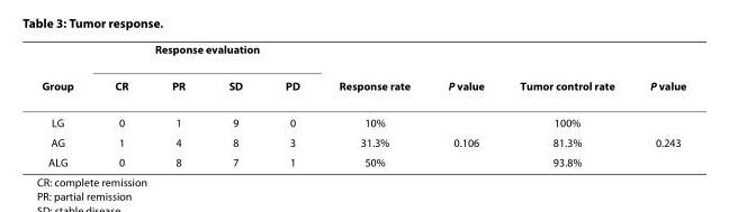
<table><thead><tr><td rowspan="2">Group</td><td colspan="4">Response evaluation</td><td rowspan="2">Response rate</td><td rowspan="2">P value</td><td rowspan="2">Tumor control rate</td><td rowspan="2">P value</td></tr><tr><td>CR</td><td>PR</td><td>SD</td><td>PD</td></tr></thead><tbody><tr><td>LG</td><td>0</td><td>1</td><td>9</td><td>0</td><td>10%</td><td></td><td>100%</td><td></td></tr><tr><td>AG</td><td>1</td><td>4</td><td>8</td><td>3</td><td>31.3%</td><td>0.106</td><td>81.3%</td><td>0.243</td></tr><tr><td>ALG</td><td>0</td><td>8</td><td>7</td><td>1</td><td>50%</td><td></td><td>93.8%</td><td></td></tr></tbody></table>